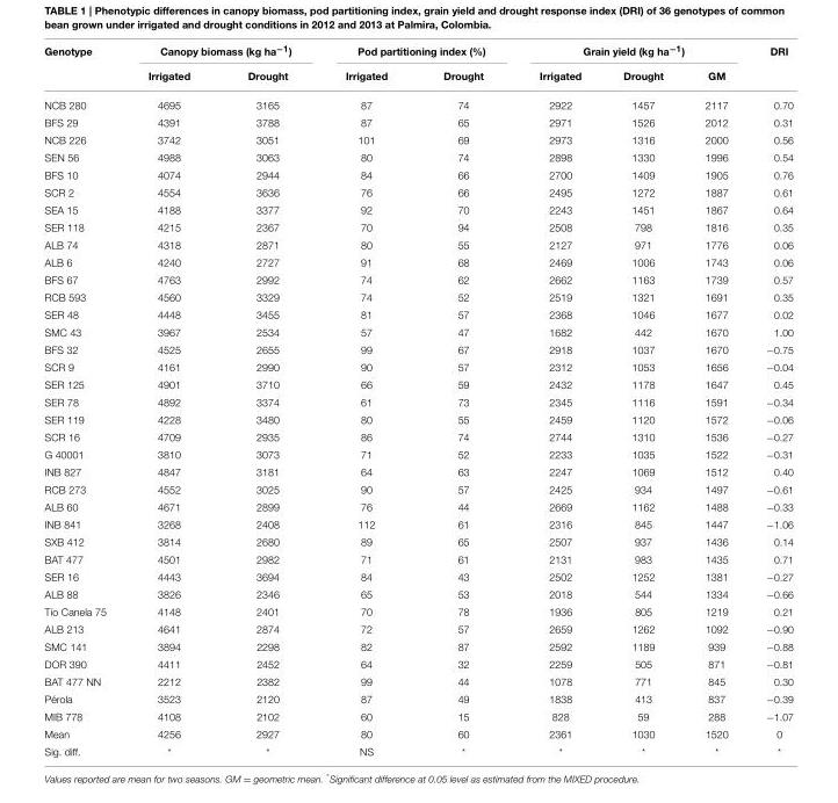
<table><thead><tr><td rowspan="2">Genotype</td><td colspan="2">Canopy biomass (kg ha<sup>−1</sup>)</td><td colspan="2">Pod partitioning index (%)</td><td colspan="3">Grain yield (kg ha<sup>−1</sup>)</td><td rowspan="2">DRI</td></tr><tr><td>Irrigated</td><td>Drought</td><td>Irrigated</td><td>Drought</td><td>Irrigated</td><td>Drought</td><td>GM</td></tr></thead><tbody><tr><td>NCB 280</td><td>4695</td><td>3165</td><td>87</td><td>74</td><td>2922</td><td>1457</td><td>2117</td><td>0.70</td></tr><tr><td>BFS 29</td><td>4391</td><td>3788</td><td>87</td><td>65</td><td>2971</td><td>1526</td><td>2012</td><td>0.31</td></tr><tr><td>NCB 226</td><td>3742</td><td>3051</td><td>101</td><td>69</td><td>2973</td><td>1316</td><td>2000</td><td>0.56</td></tr><tr><td>SEN 56</td><td>4988</td><td>3063</td><td>80</td><td>74</td><td>2898</td><td>1330</td><td>1996</td><td>0.54</td></tr><tr><td>BFS 10</td><td>4074</td><td>2944</td><td>84</td><td>66</td><td>2700</td><td>1409</td><td>1905</td><td>0.76</td></tr><tr><td>SCR 2</td><td>4554</td><td>3636</td><td>76</td><td>66</td><td>2495</td><td>1272</td><td>1887</td><td>0.61</td></tr><tr><td>SEA 15</td><td>4188</td><td>3377</td><td>92</td><td>70</td><td>2243</td><td>1451</td><td>1867</td><td>0.64</td></tr><tr><td>SER 118</td><td>4215</td><td>2367</td><td>70</td><td>94</td><td>2508</td><td>798</td><td>1816</td><td>0.35</td></tr><tr><td>ALB 74</td><td>4318</td><td>2871</td><td>80</td><td>55</td><td>2127</td><td>971</td><td>1776</td><td>0.06</td></tr><tr><td>ALB 6</td><td>4240</td><td>2727</td><td>91</td><td>68</td><td>2469</td><td>1006</td><td>1743</td><td>0.06</td></tr><tr><td>BFS 67</td><td>4763</td><td>2992</td><td>74</td><td>62</td><td>2662</td><td>1163</td><td>1739</td><td>0.57</td></tr><tr><td>RCB 593</td><td>4560</td><td>3329</td><td>74</td><td>52</td><td>2519</td><td>1321</td><td>1691</td><td>0.35</td></tr><tr><td>SER 48</td><td>4448</td><td>3455</td><td>81</td><td>57</td><td>2368</td><td>1046</td><td>1677</td><td>0.02</td></tr><tr><td>SMC 43</td><td>3967</td><td>2534</td><td>57</td><td>47</td><td>1682</td><td>442</td><td>1670</td><td>1.00</td></tr><tr><td>BFS 32</td><td>4525</td><td>2655</td><td>99</td><td>67</td><td>2918</td><td>1037</td><td>1670</td><td>−0.75</td></tr><tr><td>SCR 9</td><td>4161</td><td>2990</td><td>90</td><td>57</td><td>2312</td><td>1053</td><td>1656</td><td>−0.04</td></tr><tr><td>SER 125</td><td>4901</td><td>3710</td><td>66</td><td>59</td><td>2432</td><td>1178</td><td>1647</td><td>0.45</td></tr><tr><td>SER 78</td><td>4892</td><td>3374</td><td>61</td><td>73</td><td>2345</td><td>1116</td><td>1591</td><td>−0.34</td></tr><tr><td>SER 119</td><td>4228</td><td>3480</td><td>80</td><td>55</td><td>2459</td><td>1120</td><td>1572</td><td>−0.06</td></tr><tr><td>SCR 16</td><td>4709</td><td>2935</td><td>86</td><td>74</td><td>2744</td><td>1310</td><td>1536</td><td>−0.27</td></tr><tr><td>G 40001</td><td>3810</td><td>3073</td><td>71</td><td>52</td><td>2233</td><td>1035</td><td>1522</td><td>−0.31</td></tr><tr><td>INB 827</td><td>4847</td><td>3181</td><td>64</td><td>63</td><td>2247</td><td>1069</td><td>1512</td><td>0.40</td></tr><tr><td>RCB 273</td><td>4552</td><td>3025</td><td>90</td><td>57</td><td>2425</td><td>934</td><td>1497</td><td>−0.61</td></tr><tr><td>ALB 60</td><td>4671</td><td>2899</td><td>76</td><td>44</td><td>2669</td><td>1162</td><td>1488</td><td>−0.33</td></tr><tr><td>INB 841</td><td>3268</td><td>2408</td><td>112</td><td>61</td><td>2316</td><td>845</td><td>1447</td><td>−1.06</td></tr><tr><td>SXB 412</td><td>3814</td><td>2680</td><td>89</td><td>65</td><td>2507</td><td>937</td><td>1436</td><td>0.14</td></tr><tr><td>BAT 477</td><td>4501</td><td>2982</td><td>71</td><td>61</td><td>2131</td><td>983</td><td>1435</td><td>0.71</td></tr><tr><td>SER 16</td><td>4443</td><td>3694</td><td>84</td><td>43</td><td>2502</td><td>1252</td><td>1381</td><td>−0.27</td></tr><tr><td>ALB 88</td><td>3826</td><td>2346</td><td>65</td><td>53</td><td>2018</td><td>544</td><td>1334</td><td>−0.66</td></tr><tr><td>Tío Canela 75</td><td>4148</td><td>2401</td><td>70</td><td>78</td><td>1936</td><td>805</td><td>1219</td><td>0.21</td></tr><tr><td>ALB 213</td><td>4641</td><td>2874</td><td>72</td><td>57</td><td>2659</td><td>1262</td><td>1092</td><td>−0.90</td></tr><tr><td>SMC 141</td><td>3894</td><td>2298</td><td>82</td><td>87</td><td>2592</td><td>1189</td><td>939</td><td>−0.88</td></tr><tr><td>DOR 390</td><td>4411</td><td>2452</td><td>64</td><td>32</td><td>2259</td><td>505</td><td>871</td><td>−0.81</td></tr><tr><td>BAT 477 NN</td><td>2212</td><td>2382</td><td>99</td><td>44</td><td>1078</td><td>771</td><td>845</td><td>0.30</td></tr><tr><td>Pérola</td><td>3523</td><td>2120</td><td>87</td><td>49</td><td>1838</td><td>413</td><td>837</td><td>−0.39</td></tr><tr><td>MIB 778</td><td>4108</td><td>2102</td><td>60</td><td>15</td><td>828</td><td>59</td><td>288</td><td>−1.07</td></tr><tr><td>Mean</td><td>4256</td><td>2927</td><td>80</td><td>60</td><td>2361</td><td>1030</td><td>1520</td><td>0</td></tr><tr><td>Sig. diff.</td><td>*</td><td>*</td><td>NS</td><td>*</td><td>*</td><td>*</td><td>*</td><td>*</td></tr></tbody></table>